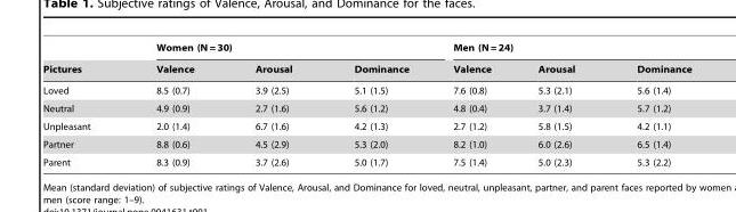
<table><thead><tr><td rowspan="2">Pictures</td><td colspan="3">Women (N = 30)</td><td colspan="3">Men (N = 24)</td></tr><tr><td>Valence</td><td>Arousal</td><td>Dominance</td><td>Valence</td><td>Arousal</td><td>Dominance</td></tr></thead><tbody><tr><td>Loved</td><td>8.5 (0.7)</td><td>3.9 (2.5)</td><td>5.1 (1.5)</td><td>7.6 (0.8)</td><td>5.3 (2.1)</td><td>5.6 (1.4)</td></tr><tr><td>Neutral</td><td>4.9 (0.9)</td><td>2.7 (1.6)</td><td>5.6 (1.2)</td><td>4.8 (0.4)</td><td>3.7 (1.4)</td><td>5.7 (1.2)</td></tr><tr><td>Unpleasant</td><td>2.0 (1.4)</td><td>6.7 (1.6)</td><td>4.2 (1.3)</td><td>2.7 (1.2)</td><td>5.8 (1.5)</td><td>4.2 (1.1)</td></tr><tr><td>Partner</td><td>8.8 (0.6)</td><td>4.5 (2.9)</td><td>5.3 (2.0)</td><td>8.2 (1.0)</td><td>6.0 (2.6)</td><td>6.5 (1.4)</td></tr><tr><td>Parent</td><td>8.3 (0.9)</td><td>3.7 (2.6)</td><td>5.0 (1.7)</td><td>7.5 (1.4)</td><td>5.0 (2.3)</td><td>5.3 (2.2)</td></tr></tbody></table>